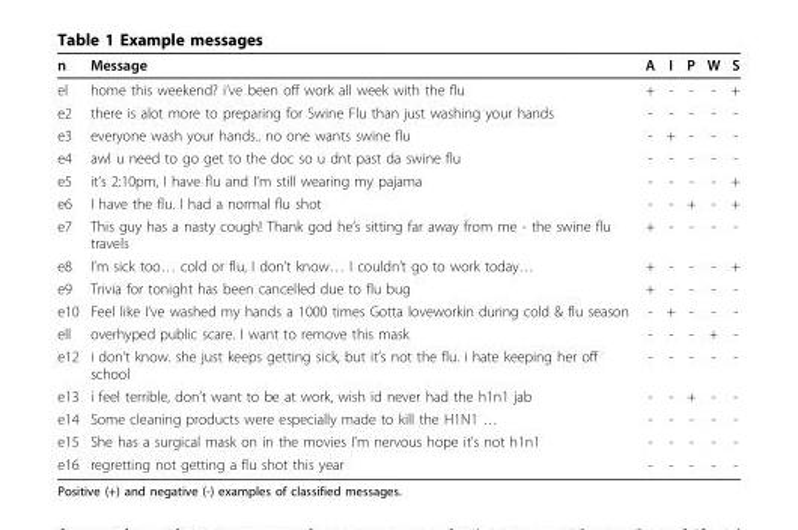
<table><thead><tr><td>n</td><td>Message</td><td>A</td><td>I</td><td>P</td><td>W</td><td>S</td></tr></thead><tbody><tr><td>el</td><td>home this weekend? i’ve been off work all week with the flu</td><td>+</td><td>-</td><td>-</td><td>-</td><td>+</td></tr><tr><td>e2</td><td>there is alot more to preparing for Swine Flu than just washing your hands</td><td>-</td><td>-</td><td>-</td><td>-</td><td>-</td></tr><tr><td>e3</td><td>everyone wash your hands.. no one wants swine flu</td><td>-</td><td>+</td><td>-</td><td>-</td><td>-</td></tr><tr><td>e4</td><td>awl u need to go get to the doc so u dnt past da swine flu</td><td>-</td><td>-</td><td>-</td><td>-</td><td>-</td></tr><tr><td>e5</td><td>it’s 2:10pm, I have flu and I’m still wearing my pajama</td><td>-</td><td>-</td><td>-</td><td>-</td><td>+</td></tr><tr><td>e6</td><td>I have the flu. I had a normal flu shot</td><td>-</td><td>-</td><td>+</td><td>-</td><td>+</td></tr><tr><td>e7</td><td>This guy has a nasty cough! Thank god he’s sitting far away from me - the swine flu travels</td><td>+</td><td>-</td><td>-</td><td>-</td><td>-</td></tr><tr><td>e8</td><td>I’m sick too… cold or flu, I don’t know… I couldn’t go to work today…</td><td>+</td><td>-</td><td>-</td><td>-</td><td>+</td></tr><tr><td>e9</td><td>Trivia for tonight has been cancelled due to flu bug</td><td>+</td><td>-</td><td>-</td><td>-</td><td>-</td></tr><tr><td>e10</td><td>Feel like I’ve washed my hands a 1000 times Gotta loveworkin during cold &amp; flu season</td><td>-</td><td>+</td><td>-</td><td>-</td><td>-</td></tr><tr><td>ell</td><td>overhyped public scare. I want to remove this mask</td><td>-</td><td>-</td><td>-</td><td>+</td><td>-</td></tr><tr><td>e12</td><td>i don’t know. she just keeps getting sick, but it’s not the flu. i hate keeping her off school</td><td>-</td><td>-</td><td>-</td><td>-</td><td>-</td></tr><tr><td>e13</td><td>i feel terrible, don’t want to be at work, wish id never had the h1n1 jab</td><td>-</td><td>-</td><td>+</td><td>-</td><td>-</td></tr><tr><td>e14</td><td>Some cleaning products were especially made to kill the H1N1 …</td><td>-</td><td>-</td><td>-</td><td>-</td><td>-</td></tr><tr><td>e15</td><td>She has a surgical mask on in the movies I’m nervous hope it’s not h1n1</td><td>-</td><td>-</td><td>-</td><td>-</td><td>-</td></tr><tr><td>e16</td><td>regretting not getting a flu shot this year</td><td>-</td><td>-</td><td>-</td><td>-</td><td>-</td></tr></tbody></table>